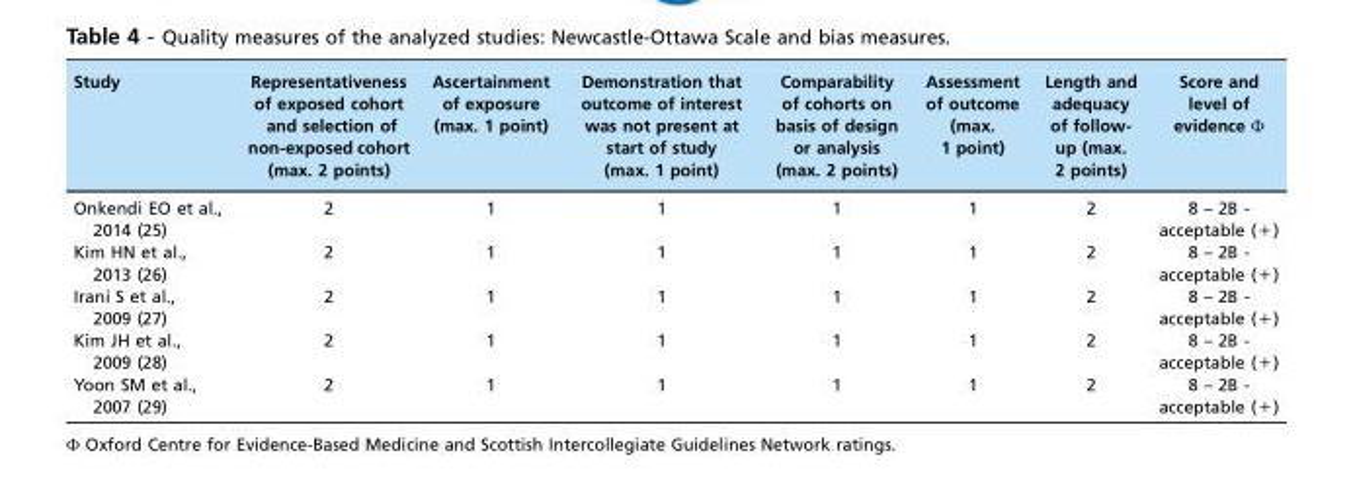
<table><thead><tr><td>Study</td><td>Representativeness of exposed cohort and selection of non-exposed cohort (max. 2 points)</td><td>Ascertainment of exposure (max. 1 point)</td><td>Demonstration that outcome of interest was not present at start of study (max. 1 point)</td><td>Comparability of cohorts on basis of design or analysis (max. 2 points)</td><td>Assessment of outcome (max. 1 point)</td><td>Length and adequacy of follow- up (max. 2 points)</td><td>Score and level of evidence ^</td></tr></thead><tbody><tr><td>Onkendi EO et al., 2014 (25)</td><td>2</td><td>1</td><td>1</td><td>1</td><td>1</td><td>2</td><td>8 – 2B - acceptable (+)</td></tr><tr><td>Kim HN et al., 2013 (26)</td><td>2</td><td>1</td><td>1</td><td>1</td><td>1</td><td>2</td><td>8 – 2B - acceptable (+)</td></tr><tr><td>Irani S et al., 2009 (27)</td><td>2</td><td>1</td><td>1</td><td>1</td><td>1</td><td>2</td><td>8 – 2B - acceptable (+)</td></tr><tr><td>Kim JH et al., 2009 (28)</td><td>2</td><td>1</td><td>1</td><td>1</td><td>1</td><td>2</td><td>8 – 2B - acceptable (+)</td></tr><tr><td>Yoon SM et al., 2007 (29)</td><td>2</td><td>1</td><td>1</td><td>1</td><td>1</td><td>2</td><td>8 – 2B - acceptable (+)</td></tr></tbody></table>